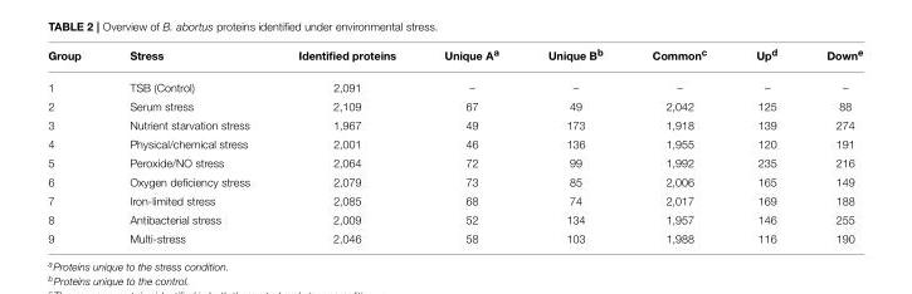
<table><thead><tr><td>Group</td><td>Stress</td><td>Identified proteins</td><td>Unique A<sup>a</sup></td><td>Unique B<sup>b</sup></td><td>Common<sup>c</sup></td><td>Up<sup>d</sup></td><td>Down<sup>e</sup></td></tr></thead><tbody><tr><td>1</td><td>TSB (Control)</td><td>2,091</td><td>–</td><td>–</td><td>–</td><td>–</td><td>–</td></tr><tr><td>2</td><td>Serum stress</td><td>2,109</td><td>67</td><td>49</td><td>2,042</td><td>125</td><td>88</td></tr><tr><td>3</td><td>Nutrient starvation stress</td><td>1,967</td><td>49</td><td>173</td><td>1,918</td><td>139</td><td>274</td></tr><tr><td>4</td><td>Physical/chemical stress</td><td>2,001</td><td>46</td><td>136</td><td>1,955</td><td>120</td><td>191</td></tr><tr><td>5</td><td>Peroxide/NO stress</td><td>2,064</td><td>72</td><td>99</td><td>1,992</td><td>235</td><td>216</td></tr><tr><td>6</td><td>Oxygen deficiency stress</td><td>2,079</td><td>73</td><td>85</td><td>2,006</td><td>165</td><td>149</td></tr><tr><td>7</td><td>Iron-limited stress</td><td>2,085</td><td>68</td><td>74</td><td>2,017</td><td>169</td><td>188</td></tr><tr><td>8</td><td>Antibacterial stress</td><td>2,009</td><td>52</td><td>134</td><td>1,957</td><td>146</td><td>255</td></tr><tr><td>9</td><td>Multi-stress</td><td>2,046</td><td>58</td><td>103</td><td>1,988</td><td>116</td><td>190</td></tr></tbody></table>